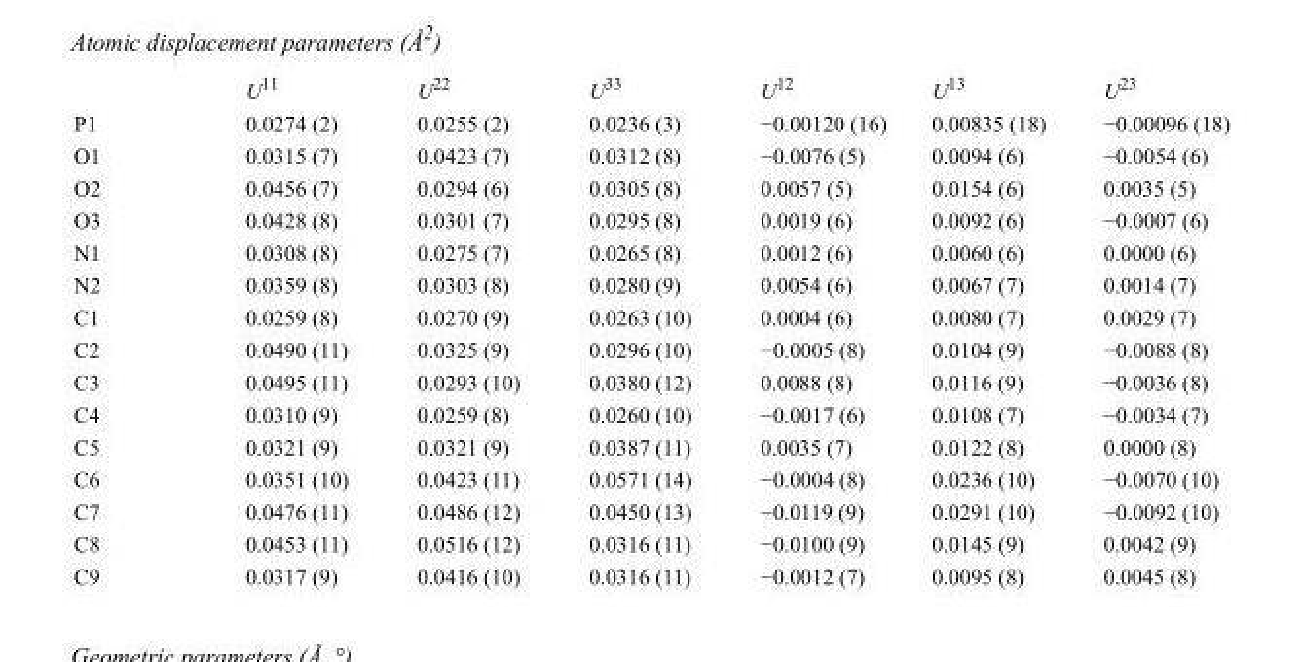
<table><thead><tr><td></td><td>U<sup>11</sup></td><td>U<sup>22</sup></td><td>U<sup>33</sup></td><td>U<sup>12</sup></td><td>U<sup>13</sup></td><td>U<sup>23</sup></td></tr></thead><tbody><tr><td>P1</td><td>0.0274 (2)</td><td>0.0255 (2)</td><td>0.0236 (3)</td><td>−0.00120 (16)</td><td>0.00835 (18)</td><td>−0.00096 (18)</td></tr><tr><td>O1</td><td>0.0315 (7)</td><td>0.0423 (7)</td><td>0.0312 (8)</td><td>−0.0076 (5)</td><td>0.0094 (6)</td><td>−0.0054 (6)</td></tr><tr><td>O2</td><td>0.0456 (7)</td><td>0.0294 (6)</td><td>0.0305 (8)</td><td>0.0057 (5)</td><td>0.0154 (6)</td><td>0.0035 (5)</td></tr><tr><td>O3</td><td>0.0428 (8)</td><td>0.0301 (7)</td><td>0.0295 (8)</td><td>0.0019 (6)</td><td>0.0092 (6)</td><td>−0.0007 (6)</td></tr><tr><td>N1</td><td>0.0308 (8)</td><td>0.0275 (7)</td><td>0.0265 (8)</td><td>0.0012 (6)</td><td>0.0060 (6)</td><td>0.0000 (6)</td></tr><tr><td>N2</td><td>0.0359 (8)</td><td>0.0303 (8)</td><td>0.0280 (9)</td><td>0.0054 (6)</td><td>0.0067 (7)</td><td>0.0014 (7)</td></tr><tr><td>C1</td><td>0.0259 (8)</td><td>0.0270 (9)</td><td>0.0263 (10)</td><td>0.0004 (6)</td><td>0.0080 (7)</td><td>0.0029 (7)</td></tr><tr><td>C2</td><td>0.0490 (11)</td><td>0.0325 (9)</td><td>0.0296 (10)</td><td>−0.0005 (8)</td><td>0.0104 (9)</td><td>−0.0088 (8)</td></tr><tr><td>C3</td><td>0.0495 (11)</td><td>0.0293 (10)</td><td>0.0380 (12)</td><td>0.0088 (8)</td><td>0.0116 (9)</td><td>−0.0036 (8)</td></tr><tr><td>C4</td><td>0.0310 (9)</td><td>0.0259 (8)</td><td>0.0260 (10)</td><td>−0.0017 (6)</td><td>0.0108 (7)</td><td>−0.0034 (7)</td></tr><tr><td>C5</td><td>0.0321 (9)</td><td>0.0321 (9)</td><td>0.0387 (11)</td><td>0.0035 (7)</td><td>0.0122 (8)</td><td>0.0000 (8)</td></tr><tr><td>C6</td><td>0.0351 (10)</td><td>0.0423 (11)</td><td>0.0571 (14)</td><td>−0.0004 (8)</td><td>0.0236 (10)</td><td>−0.0070 (10)</td></tr><tr><td>C7</td><td>0.0476 (11)</td><td>0.0486 (12)</td><td>0.0450 (13)</td><td>−0.0119 (9)</td><td>0.0291 (10)</td><td>−0.0092 (10)</td></tr><tr><td>C8</td><td>0.0453 (11)</td><td>0.0516 (12)</td><td>0.0316 (11)</td><td>−0.0100 (9)</td><td>0.0145 (9)</td><td>0.0042 (9)</td></tr><tr><td>C9</td><td>0.0317 (9)</td><td>0.0416 (10)</td><td>0.0316 (11)</td><td>−0.0012 (7)</td><td>0.0095 (8)</td><td>0.0045 (8)</td></tr></tbody></table>